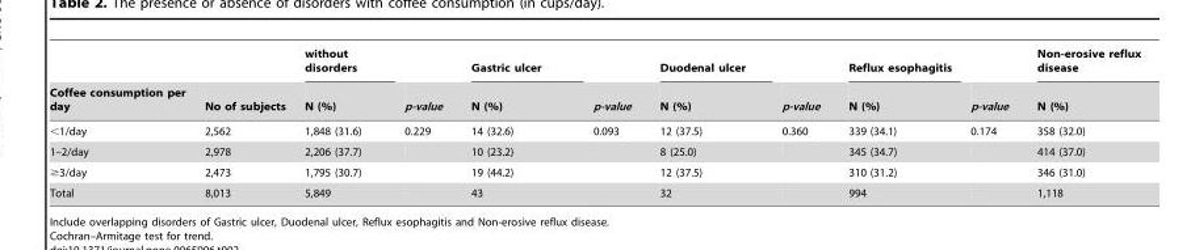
<table><thead><tr><td rowspan="2">Coffee consumption per day</td><td rowspan="2">No of subjects</td><td rowspan="2">without disorders N (%)</td><td rowspan="2">p-value</td><td rowspan="2">Gastric ulcer N (%)</td><td rowspan="2">p-value</td><td rowspan="2">Duodenal ulcer N (%)</td><td rowspan="2">p-value</td><td rowspan="2">Reflux esophagitis N (%)</td><td rowspan="2">p-value</td><td rowspan="2">Non-erosive reflux disease N (%)</td></tr><tr></tr></thead><tbody><tr><td>&lt;1/day</td><td>2,562</td><td>1,848 (31.6)</td><td>0.229</td><td>14 (32.6)</td><td>0.093</td><td>12 (37.5)</td><td>0.360</td><td>339 (34.1)</td><td>0.174</td><td>358 (32.0)</td></tr><tr><td>1–2/day</td><td>2,978</td><td>2,206 (37.7)</td><td></td><td>10 (23.2)</td><td></td><td>8 (25.0)</td><td></td><td>345 (34.7)</td><td></td><td>414 (37.0)</td></tr><tr><td>≥3/day</td><td>2,473</td><td>1,795 (30.7)</td><td></td><td>19 (44.2)</td><td></td><td>12 (37.5)</td><td></td><td>310 (31.2)</td><td></td><td>346 (31.0)</td></tr><tr><td>Total</td><td>8,013</td><td>5,849</td><td></td><td>43</td><td></td><td>32</td><td></td><td>994</td><td></td><td>1,118</td></tr></tbody></table>